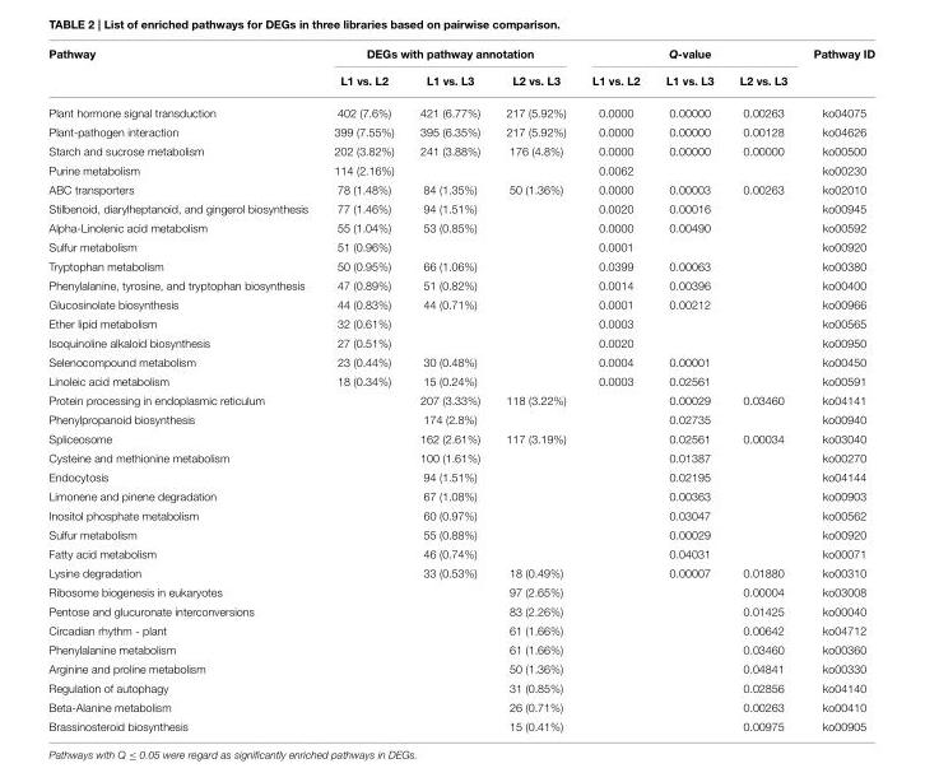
<table><thead><tr><td rowspan="2">Pathway</td><td colspan="3">DEGs with pathway annotation</td><td colspan="3">Q-value</td><td rowspan="2">Pathway ID</td></tr><tr><td>L1 vs. L2</td><td>L1 vs. L3</td><td>L2 vs. L3</td><td>L1 vs. L2</td><td>L1 vs. L3</td><td>L2 vs. L3</td></tr></thead><tbody><tr><td>Plant hormone signal transduction</td><td>402 (7.6%)</td><td>421 (6.77%)</td><td>217 (5.92%)</td><td>0.0000</td><td>0.00000</td><td>0.00263</td><td>ko04075</td></tr><tr><td>Plant-pathogen interaction</td><td>399 (7.55%)</td><td>395 (6.35%)</td><td>217 (5.92%)</td><td>0.0000</td><td>0.00000</td><td>0.00128</td><td>ko04626</td></tr><tr><td>Starch and sucrose metabolism</td><td>202 (3.82%)</td><td>241 (3.88%)</td><td>176 (4.8%)</td><td>0.0000</td><td>0.00000</td><td>0.00000</td><td>ko00500</td></tr><tr><td>Purine metabolism</td><td>114 (2.16%)</td><td></td><td></td><td>0.0062</td><td></td><td></td><td>ko00230</td></tr><tr><td>ABC transporters</td><td>78 (1.48%)</td><td>84 (1.35%)</td><td>50 (1.36%)</td><td>0.0000</td><td>0.00003</td><td>0.00263</td><td>ko02010</td></tr><tr><td>Stilbenoid, diarylheptanoid, and gingerol biosynthesis</td><td>77 (1.46%)</td><td>94 (1.51%)</td><td></td><td>0.0020</td><td>0.00016</td><td></td><td>ko00945</td></tr><tr><td>Alpha-Linolenic acid metabolism</td><td>55 (1.04%)</td><td>53 (0.85%)</td><td></td><td>0.0000</td><td>0.00490</td><td></td><td>ko00592</td></tr><tr><td>Sulfur metabolism</td><td>51 (0.96%)</td><td></td><td></td><td>0.0001</td><td></td><td></td><td>ko00920</td></tr><tr><td>Tryptophan metabolism</td><td>50 (0.95%)</td><td>66 (1.06%)</td><td></td><td>0.0399</td><td>0.00063</td><td></td><td>ko00380</td></tr><tr><td>Phenylalanine, tyrosine, and tryptophan biosynthesis</td><td>47 (0.89%)</td><td>51 (0.82%)</td><td></td><td>0.0014</td><td>0.00396</td><td></td><td>ko00400</td></tr><tr><td>Glucosinolate biosynthesis</td><td>44 (0.83%)</td><td>44 (0.71%)</td><td></td><td>0.0001</td><td>0.00212</td><td></td><td>ko00966</td></tr><tr><td>Ether lipid metabolism</td><td>32 (0.61%)</td><td></td><td></td><td>0.0003</td><td></td><td></td><td>ko00565</td></tr><tr><td>Isoquinoline alkaloid biosynthesis</td><td>27 (0.51%)</td><td></td><td></td><td>0.0020</td><td></td><td></td><td>ko00950</td></tr><tr><td>Selenocompound metabolism</td><td>23 (0.44%)</td><td>30 (0.48%)</td><td></td><td>0.0004</td><td>0.00001</td><td></td><td>ko00450</td></tr><tr><td>Linoleic acid metabolism</td><td>18 (0.34%)</td><td>15 (0.24%)</td><td></td><td>0.0003</td><td>0.02561</td><td></td><td>ko00591</td></tr><tr><td>Protein processing in endoplasmic reticulum</td><td></td><td>207 (3.33%)</td><td>118 (3.22%)</td><td></td><td>0.00029</td><td>0.03460</td><td>ko04141</td></tr><tr><td>Phenylpropanoid biosynthesis</td><td></td><td>174 (2.8%)</td><td></td><td></td><td>0.02735</td><td></td><td>ko00940</td></tr><tr><td>Spliceosome</td><td></td><td>162 (2.61%)</td><td>117 (3.19%)</td><td></td><td>0.02561</td><td>0.00034</td><td>ko03040</td></tr><tr><td>Cysteine and methionine metabolism</td><td></td><td>100 (1.61%)</td><td></td><td></td><td>0.01387</td><td></td><td>ko00270</td></tr><tr><td>Endocytosis</td><td></td><td>94 (1.51%)</td><td></td><td></td><td>0.02195</td><td></td><td>ko04144</td></tr><tr><td>Limonene and pinene degradation</td><td></td><td>67 (1.08%)</td><td></td><td></td><td>0.00363</td><td></td><td>ko00903</td></tr><tr><td>Inositol phosphate metabolism</td><td></td><td>60 (0.97%)</td><td></td><td></td><td>0.03047</td><td></td><td>ko00562</td></tr><tr><td>Sulfur metabolism</td><td></td><td>55 (0.88%)</td><td></td><td></td><td>0.00029</td><td></td><td>ko00920</td></tr><tr><td>Fatty acid metabolism</td><td></td><td>46 (0.74%)</td><td></td><td></td><td>0.04031</td><td></td><td>ko00071</td></tr><tr><td>Lysine degradation</td><td></td><td>33 (0.53%)</td><td>18 (0.49%)</td><td></td><td>0.00007</td><td>0.01880</td><td>ko00310</td></tr><tr><td>Ribosome biogenesis in eukaryotes</td><td></td><td></td><td>97 (2.65%)</td><td></td><td></td><td>0.00004</td><td>ko03008</td></tr><tr><td>Pentose and glucuronate interconversions</td><td></td><td></td><td>83 (2.26%)</td><td></td><td></td><td>0.01425</td><td>ko00040</td></tr><tr><td>Circadian rhythm - plant</td><td></td><td></td><td>61 (1.66%)</td><td></td><td></td><td>0.00642</td><td>ko04712</td></tr><tr><td>Phenylalanine metabolism</td><td></td><td></td><td>61 (1.66%)</td><td></td><td></td><td>0.03460</td><td>ko00360</td></tr><tr><td>Arginine and proline metabolism</td><td></td><td></td><td>50 (1.36%)</td><td></td><td></td><td>0.04841</td><td>ko00330</td></tr><tr><td>Regulation of autophagy</td><td></td><td></td><td>31 (0.85%)</td><td></td><td></td><td>0.02856</td><td>ko04140</td></tr><tr><td>Beta-Alanine metabolism</td><td></td><td></td><td>26 (0.71%)</td><td></td><td></td><td>0.00263</td><td>ko00410</td></tr><tr><td>Brassinosteroid biosynthesis</td><td></td><td></td><td>15 (0.41%)</td><td></td><td></td><td>0.00975</td><td>ko00905</td></tr></tbody></table>